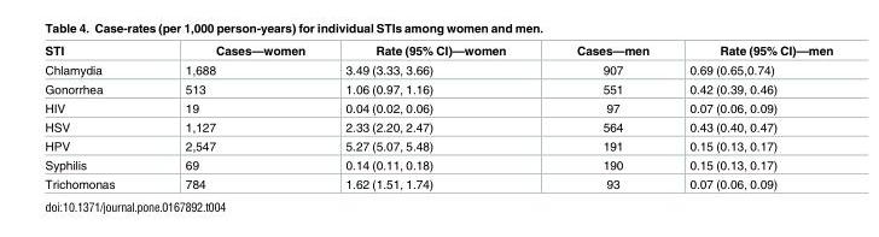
<table><thead><tr><td>STI</td><td>Cases—women</td><td>Rate (95% CI)—women</td><td>Cases—men</td><td>Rate (95% CI)—men</td></tr></thead><tbody><tr><td>Chlamydia</td><td>1,688</td><td>3.49 (3.33, 3.66)</td><td>907</td><td>0.69 (0.65,0.74)</td></tr><tr><td>Gonorrhea</td><td>513</td><td>1.06 (0.97, 1.16)</td><td>551</td><td>0.42 (0.39, 0.46)</td></tr><tr><td>HIV</td><td>19</td><td>0.04 (0.02, 0.06)</td><td>97</td><td>0.07 (0.06, 0.09)</td></tr><tr><td>HSV</td><td>1,127</td><td>2.33 (2.20, 2.47)</td><td>564</td><td>0.43 (0.40, 0.47)</td></tr><tr><td>HPV</td><td>2,547</td><td>5.27 (5.07, 5.48)</td><td>191</td><td>0.15 (0.13, 0.17)</td></tr><tr><td>Syphilis</td><td>69</td><td>0.14 (0.11, 0.18)</td><td>190</td><td>0.15 (0.13, 0.17)</td></tr><tr><td>Trichomonas</td><td>784</td><td>1.62 (1.51, 1.74)</td><td>93</td><td>0.07 (0.06, 0.09)</td></tr></tbody></table>